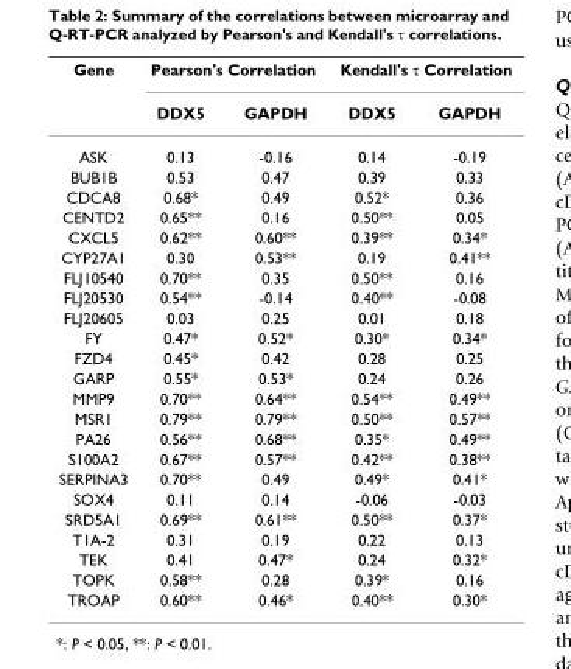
<table><thead><tr><td rowspan="2">Gene</td><td colspan="2">Pearson&#x27;s Correlation</td><td colspan="2">Kendall&#x27;s τ Correlation</td></tr><tr><td>DDX5</td><td>GAPDH</td><td>DDX5</td><td>GAPDH</td></tr></thead><tbody><tr><td>ASK</td><td>0.13</td><td>-0.16</td><td>0.14</td><td>-0.19</td></tr><tr><td>BUB1B</td><td>0.53</td><td>0.47</td><td>0.39</td><td>0.33</td></tr><tr><td>CDCA8</td><td>0.68*</td><td>0.49</td><td>0.52*</td><td>0.36</td></tr><tr><td>CENTD2</td><td>0.65**</td><td>0.16</td><td>0.50**</td><td>0.05</td></tr><tr><td>CXCL5</td><td>0.62**</td><td>0.60**</td><td>0.39**</td><td>0.34*</td></tr><tr><td>CYP27A1</td><td>0.30</td><td>0.53**</td><td>0.19</td><td>0.41**</td></tr><tr><td>FLJ10540</td><td>0.70**</td><td>0.35</td><td>0.50**</td><td>0.16</td></tr><tr><td>FLJ20530</td><td>0.54**</td><td>-0.14</td><td>0.40**</td><td>-0.08</td></tr><tr><td>FLJ20605</td><td>0.03</td><td>0.25</td><td>0.01</td><td>0.18</td></tr><tr><td>FY</td><td>0.47*</td><td>0.52*</td><td>0.30*</td><td>0.34*</td></tr><tr><td>FZD4</td><td>0.45*</td><td>0.42</td><td>0.28</td><td>0.25</td></tr><tr><td>GARP</td><td>0.55*</td><td>0.53*</td><td>0.24</td><td>0.26</td></tr><tr><td>MMP9</td><td>0.70**</td><td>0.64**</td><td>0.54**</td><td>0.49**</td></tr><tr><td>MSR1</td><td>0.79**</td><td>0.79**</td><td>0.50**</td><td>0.57**</td></tr><tr><td>PA26</td><td>0.56**</td><td>0.68**</td><td>0.35*</td><td>0.49**</td></tr><tr><td>S100A2</td><td>0.67**</td><td>0.57**</td><td>0.42**</td><td>0.38**</td></tr><tr><td>SERPINA3</td><td>0.70**</td><td>0.49</td><td>0.49*</td><td>0.41*</td></tr><tr><td>SOX4</td><td>0.11</td><td>0.14</td><td>-0.06</td><td>-0.03</td></tr><tr><td>SRD5A1</td><td>0.69**</td><td>0.61**</td><td>0.50**</td><td>0.37*</td></tr><tr><td>T1A-2</td><td>0.31</td><td>0.19</td><td>0.22</td><td>0.13</td></tr><tr><td>TEK</td><td>0.41</td><td>0.47*</td><td>0.24</td><td>0.32*</td></tr><tr><td>TOPK</td><td>0.58**</td><td>0.28</td><td>0.39*</td><td>0.16</td></tr><tr><td>TROAP</td><td>0.60**</td><td>0.46*</td><td>0.40**</td><td>0.30*</td></tr></tbody></table>